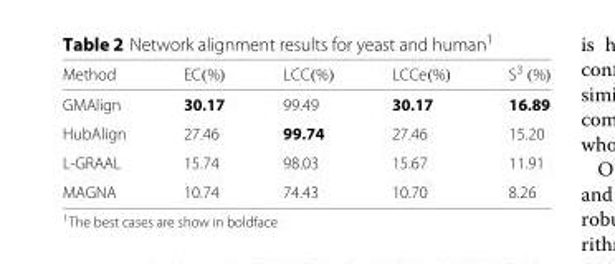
<table><thead><tr><td>Method</td><td>EC(%)</td><td>LCC(%)</td><td>LCCe(%)</td><td>S<sup>3</sup> (%)</td></tr></thead><tbody><tr><td>GMAlign</td><td>30.17</td><td>99.49</td><td>30.17</td><td>16.89</td></tr><tr><td>HubAlign</td><td>27.46</td><td>99.74</td><td>27.46</td><td>15.20</td></tr><tr><td>L-GRAAL</td><td>15.74</td><td>98.03</td><td>15.67</td><td>11.91</td></tr><tr><td>MAGNA</td><td>10.74</td><td>74.43</td><td>10.70</td><td>8.26</td></tr></tbody></table>